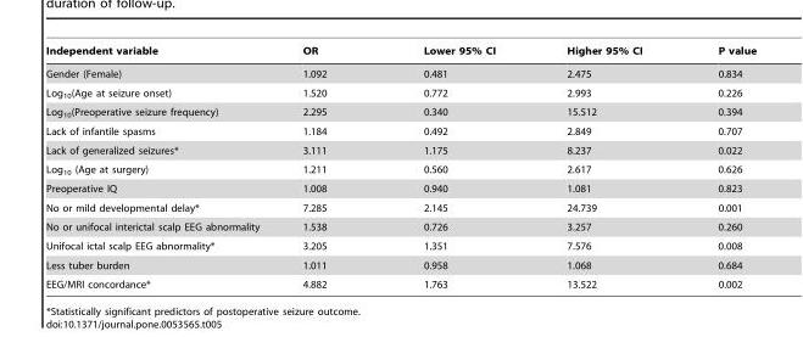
<table><thead><tr><td>Independent variable</td><td>OR</td><td>Lower 95% CI</td><td>Higher 95% CI</td><td>P value</td></tr></thead><tbody><tr><td>Gender (Female)</td><td>1.092</td><td>0.481</td><td>2.475</td><td>0.834</td></tr><tr><td>Log<sub>10</sub>(Age at seizure onset)</td><td>1.520</td><td>0.772</td><td>2.993</td><td>0.226</td></tr><tr><td>Log<sub>10</sub>(Preoperative seizure frequency)</td><td>2.295</td><td>0.340</td><td>15.512</td><td>0.394</td></tr><tr><td>Lack of infantile spasms</td><td>1.184</td><td>0.492</td><td>2.849</td><td>0.707</td></tr><tr><td>Lack of generalized seizures*</td><td>3.111</td><td>1.175</td><td>8.237</td><td>0.022</td></tr><tr><td>Log<sub>10</sub> (Age at surgery)</td><td>1.211</td><td>0.560</td><td>2.617</td><td>0.626</td></tr><tr><td>Preoperative IQ</td><td>1.008</td><td>0.940</td><td>1.081</td><td>0.823</td></tr><tr><td>No or mild developmental delay*</td><td>7.285</td><td>2.145</td><td>24.739</td><td>0.001</td></tr><tr><td>No or unifocal interictal scalp EEG abnormality</td><td>1.538</td><td>0.726</td><td>3.257</td><td>0.260</td></tr><tr><td>Unifocal ictal scalp EEG abnormality*</td><td>3.205</td><td>1.351</td><td>7.576</td><td>0.008</td></tr><tr><td>Less tuber burden</td><td>1.011</td><td>0.958</td><td>1.068</td><td>0.684</td></tr><tr><td>EEG/MRI concordance*</td><td>4.882</td><td>1.763</td><td>13.522</td><td>0.002</td></tr></tbody></table>